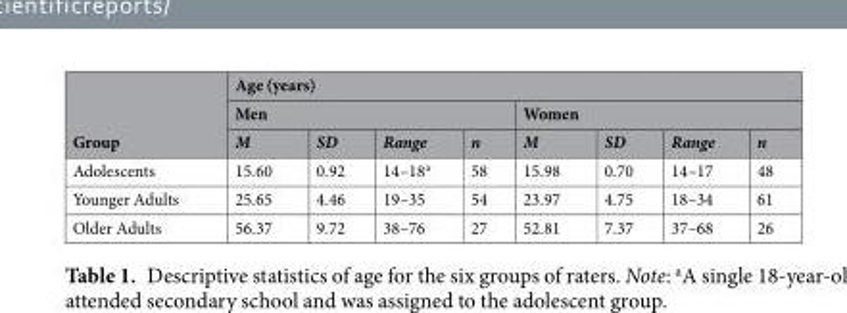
<table><thead><tr><td rowspan="3">Group</td><td colspan="8">Age (years)</td></tr><tr><td colspan="4">Men</td><td colspan="4">Women</td></tr><tr><td>M</td><td>SD</td><td>Range</td><td>n</td><td>M</td><td>SD</td><td>Range</td><td>n</td></tr></thead><tbody><tr><td>Adolescents</td><td>15.60</td><td>0.92</td><td>14–18<sup>a</sup></td><td>58</td><td>15.98</td><td>0.70</td><td>14–17</td><td>48</td></tr><tr><td>Younger Adults</td><td>25.65</td><td>4.46</td><td>19–35</td><td>54</td><td>23.97</td><td>4.75</td><td>18–34</td><td>61</td></tr><tr><td>Older Adults</td><td>56.37</td><td>9.72</td><td>38–76</td><td>27</td><td>52.81</td><td>7.37</td><td>37–68</td><td>26</td></tr></tbody></table>